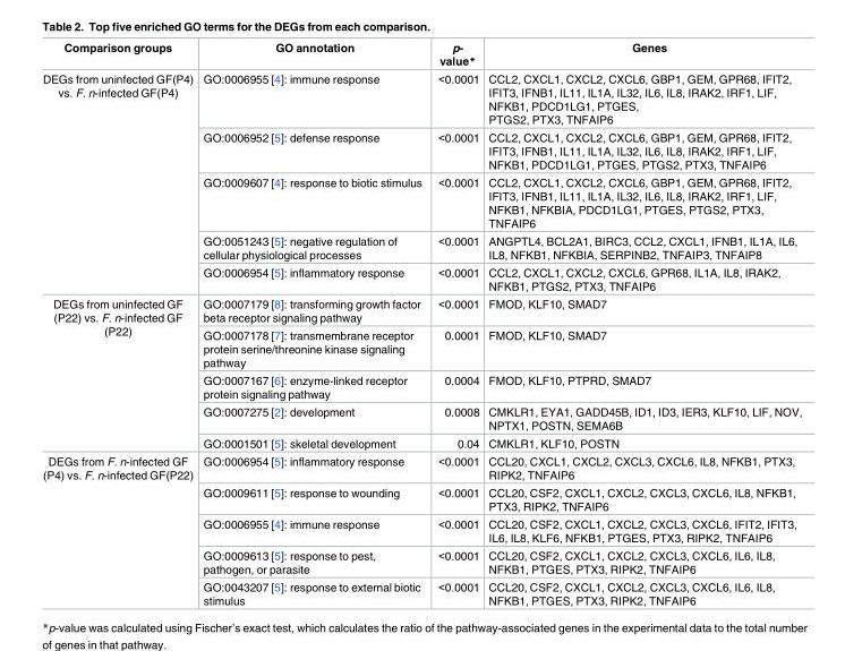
<table><thead><tr><td>Comparison groups</td><td>GO annotation</td><td>p- value*</td><td>Genes</td></tr></thead><tbody><tr><td rowspan="5">DEGs from uninfected GF(P4) vs. F. n-infected GF(P4)</td><td>GO:0006955 [4]: immune response</td><td>&lt;0.0001</td><td>CCL2, CXCL1, CXCL2, CXCL6, GBP1, GEM, GPR68, IFIT2, IFIT3, IFNB1, IL11, IL1A, IL32, IL6, IL8, IRAK2, IRF1, LIF, NFKB1, PDCD1LG1, PTGES, PTGS2, PTX3, TNFAIP6</td></tr><tr><td>GO:0006952 [5]: defense response</td><td>&lt;0.0001</td><td>CCL2, CXCL1, CXCL2, CXCL6, GBP1, GEM, GPR68, IFIT2, IFIT3, IFNB1, IL11, IL1A, IL32, IL6, IL8, IRAK2, IRF1, LIF, NFKB1, PDCD1LG1, PTGES, PTGS2, PTX3, TNFAIP6</td></tr><tr><td>GO:0009607 [4]: response to biotic stimulus</td><td>&lt;0.0001</td><td>CCL2, CXCL1, CXCL2, CXCL6, GBP1, GEM, GPR68, IFIT2, IFIT3, IFNB1, IL11, IL1A, IL32, IL6, IL8, IRAK2, IRF1, LIF, NFKB1, NFKBIA, PDCD1LG1, PTGES, PTGS2, PTX3, TNFAIP6</td></tr><tr><td>GO:0051243 [5]: negative regulation of cellular physiological processes</td><td>&lt;0.0001</td><td>ANGPTL4, BCL2A1, BIRC3, CCL2, CXCL1, IFNB1, IL1A, IL6, IL8, NFKB1, NFKBIA, SERPINB2, TNFAIP3, TNFAIP8</td></tr><tr><td>GO:0006954 [5]: inflammatory response</td><td>&lt;0.0001</td><td>CCL2, CXCL1, CXCL2, CXCL6, GPR68, IL1A, IL8, IRAK2, NFKB1, PTGS2, PTX3, TNFAIP6</td></tr><tr><td rowspan="5">DEGs from uninfected GF (P22) vs. F. n-infected GF (P22)</td><td>GO:0007179 [8]: transforming growth factor beta receptor signaling pathway</td><td>&lt;0.0001</td><td>FMOD, KLF10, SMAD7</td></tr><tr><td>GO:0007178 [7]: transmembrane receptor protein serine/threonine kinase signaling pathway</td><td>0.0001</td><td>FMOD, KLF10, SMAD7</td></tr><tr><td>GO:0007167 [6]: enzyme-linked receptor protein signaling pathway</td><td>0.0004</td><td>FMOD, KLF10, PTPRD, SMAD7</td></tr><tr><td>GO:0007275 [2]: development</td><td>0.0008</td><td>CMKLR1, EYA1, GADD45B, ID1, ID3, IER3, KLF10, LIF, NOV, NPTX1, POSTN, SEMA6B</td></tr><tr><td>GO:0001501 [5]: skeletal development</td><td>0.04</td><td>CMKLR1, KLF10, POSTN</td></tr><tr><td rowspan="5">DEGs from F. n-infected GF (P4) vs. F. n-infected GF(P22)</td><td>GO:0006954 [5]: inflammatory response</td><td>&lt;0.0001</td><td>CCL20, CXCL1, CXCL2, CXCL3, CXCL6, IL8, NFKB1, PTX3, RIPK2, TNFAIP6</td></tr><tr><td>GO:0009611 [5]: response to wounding</td><td>&lt;0.0001</td><td>CCL20, CSF2, CXCL1, CXCL2, CXCL3, CXCL6, IL8, NFKB1, PTX3, RIPK2, TNFAIP6</td></tr><tr><td>GO:0006955 [4]: immune response</td><td>&lt;0.0001</td><td>CCL20, CSF2, CXCL1, CXCL2, CXCL3, CXCL6, IFIT2, IFIT3, IL6, IL8, KLF6, NFKB1, PTGES, PTX3, RIPK2, TNFAIP6</td></tr><tr><td>GO:0009613 [5]: response to pest, pathogen, or parasite</td><td>&lt;0.0001</td><td>CCL20, CSF2, CXCL1, CXCL2, CXCL3, CXCL6, IL6, IL8, NFKB1, PTGES, PTX3, RIPK2, TNFAIP6</td></tr><tr><td>GO:0043207 [5]: response to external biotic stimulus</td><td>&lt;0.0001</td><td>CCL20, CSF2, CXCL1, CXCL2, CXCL3, CXCL6, IL6, IL8, NFKB1, PTGES, PTX3, RIPK2, TNFAIP6</td></tr></tbody></table>